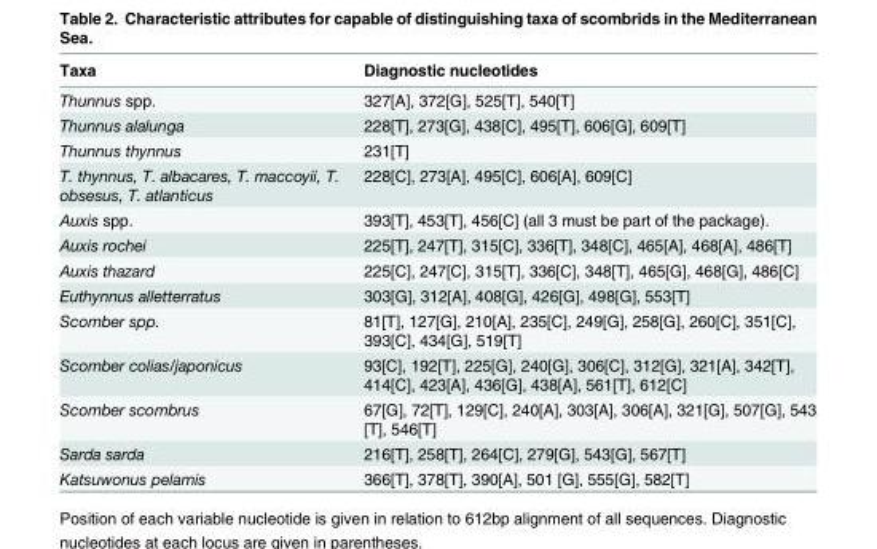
<table><thead><tr><td>Taxa</td><td>Diagnostic nucleotides</td></tr></thead><tbody><tr><td>Thunnus spp.</td><td>327[A], 372[G], 525[T], 540[T]</td></tr><tr><td>Thunnus alalunga</td><td>228[T], 273[G], 438[C], 495[T], 606[G], 609[T]</td></tr><tr><td>Thunnus thynnus</td><td>231[T]</td></tr><tr><td>T. thynnus, T. albacares, T. maccoyii, T. obsesus, T. atlanticus</td><td>228[C], 273[A], 495[C], 606[A], 609[C]</td></tr><tr><td>Auxis spp.</td><td>393[T], 453[T], 456[C] (all 3 must be part of the package).</td></tr><tr><td>Auxis rochei</td><td>225[T], 247[T], 315[C], 336[T], 348[C], 465[A], 468[A], 486[T]</td></tr><tr><td>Auxis thazard</td><td>225[C], 247[C], 315[T], 336[C], 348[T], 465[G], 468[G], 486[C]</td></tr><tr><td>Euthynnus alletterratus</td><td>303[G], 312[A], 408[G], 426[G], 498[G], 553[T]</td></tr><tr><td>Scomber spp.</td><td>81[T], 127[G], 210[A], 235[C], 249[G], 258[G], 260[C], 351[C], 393[C], 434[G], 519[T]</td></tr><tr><td>Scomber colias/japonicus</td><td>93[C], 192[T], 225[G], 240[G], 306[C], 312[G], 321[A], 342[T], 414[C], 423[A], 436[G], 438[A], 561[T], 612[C]</td></tr><tr><td>Scomber scombrus</td><td>67[G], 72[T], 129[C], 240[A], 303[A], 306[A], 321[G], 507[G], 543 [T], 546[T]</td></tr><tr><td>Sarda sarda</td><td>216[T], 258[T], 264[C], 279[G], 543[G], 567[T]</td></tr><tr><td>Katsuwonus pelamis</td><td>366[T], 378[T], 390[A], 501 [G], 555[G], 582[T]</td></tr></tbody></table>